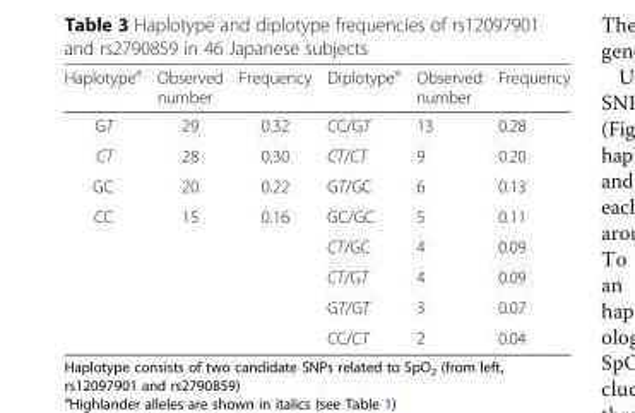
<table><thead><tr><td>Haplotype<sup>a</sup></td><td>Observed number</td><td>Frequency</td><td>Diplotype<sup>a</sup></td><td>Observed number</td><td>Frequency</td></tr></thead><tbody><tr><td>GT</td><td>29</td><td>0.32</td><td>CC/GT</td><td>13</td><td>0.28</td></tr><tr><td>CT</td><td>28</td><td>0.30</td><td>CT/CT</td><td>9</td><td>0.20</td></tr><tr><td>GC</td><td>20</td><td>0.22</td><td>GT/GC</td><td>6</td><td>0.13</td></tr><tr><td rowspan="5">CC</td><td>15</td><td>0.16</td><td>GC/GC</td><td>5</td><td>0.11</td></tr><tr><td></td><td></td><td>CT/GC</td><td>4</td><td>0.09</td></tr><tr><td></td><td></td><td>CT/GT</td><td>4</td><td>0.09</td></tr><tr><td></td><td></td><td>GT/GT</td><td>3</td><td>0.07</td></tr><tr><td></td><td></td><td>CC/CT</td><td>2</td><td>0.04</td></tr></tbody></table>